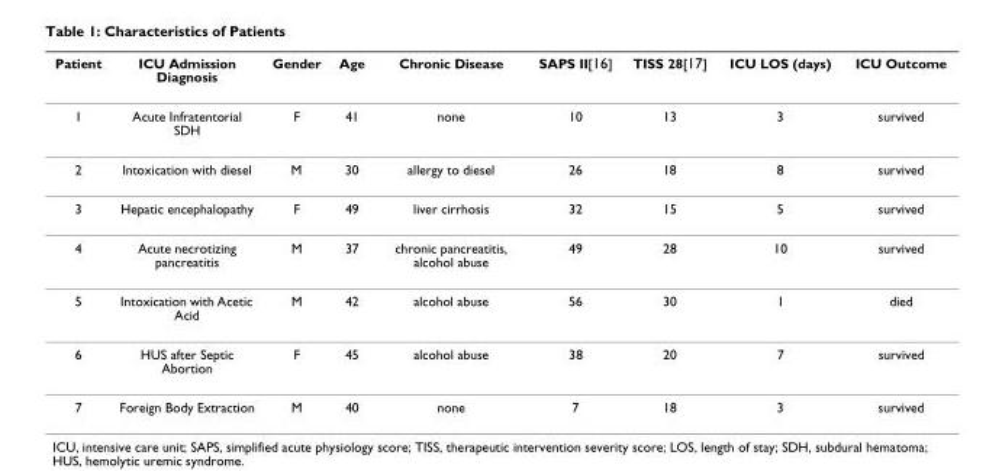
<table><thead><tr><td>Patient</td><td>ICU Admission Diagnosis</td><td>Gender</td><td>Age</td><td>Chronic Disease</td><td>SAPS II[16]</td><td>TISS 28[17]</td><td>ICU LOS (days)</td><td>ICU Outcome</td></tr></thead><tbody><tr><td>1</td><td>Acute Infratentorial SDH</td><td>F</td><td>41</td><td>none</td><td>10</td><td>13</td><td>3</td><td>survived</td></tr><tr><td>2</td><td>Intoxication with diesel</td><td>M</td><td>30</td><td>allergy to diesel</td><td>26</td><td>18</td><td>8</td><td>survived</td></tr><tr><td>3</td><td>Hepatic encephalopathy</td><td>F</td><td>49</td><td>liver cirrhosis</td><td>32</td><td>15</td><td>5</td><td>survived</td></tr><tr><td>4</td><td>Acute necrotizing pancreatitis</td><td>M</td><td>37</td><td>chronic pancreatitis, alcohol abuse</td><td>49</td><td>28</td><td>10</td><td>survived</td></tr><tr><td>5</td><td>Intoxication with Acetic Acid</td><td>M</td><td>42</td><td>alcohol abuse</td><td>56</td><td>30</td><td>1</td><td>died</td></tr><tr><td>6</td><td>HUS after Septic Abortion</td><td>F</td><td>45</td><td>alcohol abuse</td><td>38</td><td>20</td><td>7</td><td>survived</td></tr><tr><td>7</td><td>Foreign Body Extraction</td><td>M</td><td>40</td><td>none</td><td>7</td><td>18</td><td>3</td><td>survived</td></tr></tbody></table>